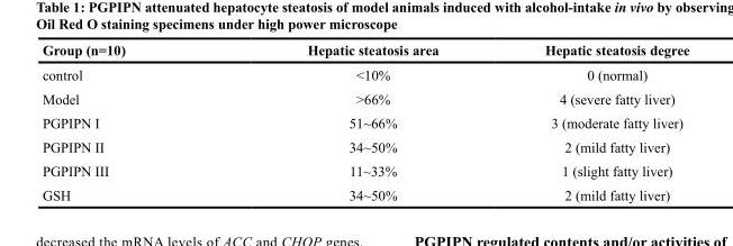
<table><thead><tr><td>Group (n=10)</td><td>Hepatic steatosis area</td><td>Hepatic steatosis degree</td></tr></thead><tbody><tr><td>control</td><td>&lt;10%</td><td>0 (normal)</td></tr><tr><td>Model</td><td>&gt;66%</td><td>4 (severe fatty liver)</td></tr><tr><td>PGPIPN I</td><td>51~66%</td><td>3 (moderate fatty liver)</td></tr><tr><td>PGPIPN II</td><td>34~50%</td><td>2 (mild fatty liver)</td></tr><tr><td>PGPIPN III</td><td>11~33%</td><td>1 (slight fatty liver)</td></tr><tr><td>GSH</td><td>34~50%</td><td>2 (mild fatty liver)</td></tr></tbody></table>